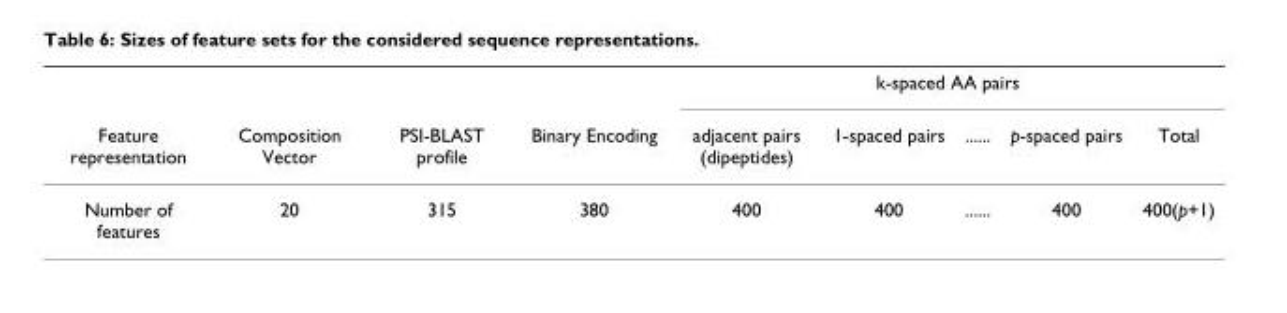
<table><thead><tr><td rowspan="2">Feature representation</td><td rowspan="2">Composition Vector</td><td rowspan="2">PSI-BLAST profile</td><td rowspan="2">Binary Encoding</td><td colspan="5">k-spaced AA pairs</td></tr><tr><td>adjacent pairs (dipeptides)</td><td>1-spaced pairs</td><td>......</td><td>p-spaced pairs</td><td>Total</td></tr></thead><tbody><tr><td>Number of features</td><td>20</td><td>315</td><td>380</td><td>400</td><td>400</td><td>......</td><td>400</td><td>400(p+1)</td></tr></tbody></table>